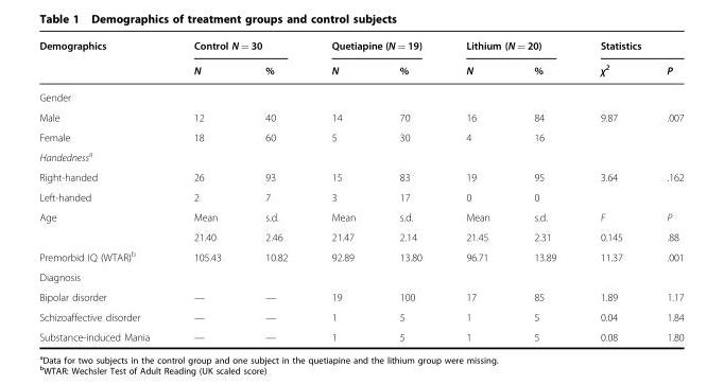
<table><thead><tr><td rowspan="2">Demographics</td><td colspan="2">Control N = 30</td><td colspan="2">Quetiapine (N = 19)</td><td colspan="2">Lithium (N = 20)</td><td colspan="2">Statistics</td></tr><tr><td>N</td><td>%</td><td>N</td><td>%</td><td>N</td><td>%</td><td>χ<sup>2</sup></td><td>P</td></tr></thead><tbody><tr><td colspan="9">Gender</td></tr><tr><td>Male</td><td>12</td><td>40</td><td>14</td><td>70</td><td>16</td><td>84</td><td rowspan="2">9.87</td><td rowspan="2">.007</td></tr><tr><td>Female</td><td>18</td><td>60</td><td>5</td><td>30</td><td>4</td><td>16</td></tr><tr><td colspan="9">Handedness<sup>a</sup></td></tr><tr><td>Right-handed</td><td>26</td><td>93</td><td>15</td><td>83</td><td>19</td><td>95</td><td rowspan="2">3.64</td><td rowspan="2">.162</td></tr><tr><td>Left-handed</td><td>2</td><td>7</td><td>3</td><td>17</td><td>0</td><td>0</td></tr><tr><td rowspan="2">Age</td><td>Mean</td><td>s.d.</td><td>Mean</td><td>s.d.</td><td>Mean</td><td>s.d.</td><td>F</td><td>P</td></tr><tr><td>21.40</td><td>2.46</td><td>21.47</td><td>2.14</td><td>21.45</td><td>2.31</td><td>0.145</td><td>.88</td></tr><tr><td>Premorbid IQ (WTAR)<sup>b</sup></td><td>105.43</td><td>10.82</td><td>92.89</td><td>13.80</td><td>96.71</td><td>13.89</td><td>11.37</td><td>.001</td></tr><tr><td colspan="9">Diagnosis</td></tr><tr><td>Bipolar disorder</td><td>—</td><td>—</td><td>19</td><td>100</td><td>17</td><td>85</td><td>1.89</td><td>1.17</td></tr><tr><td>Schizoaffective disorder</td><td>—</td><td>—</td><td>1</td><td>5</td><td>1</td><td>5</td><td>0.04</td><td>1.84</td></tr><tr><td>Substance-induced Mania</td><td>—</td><td>—</td><td>1</td><td>5</td><td>1</td><td>5</td><td>0.08</td><td>1.80</td></tr></tbody></table>